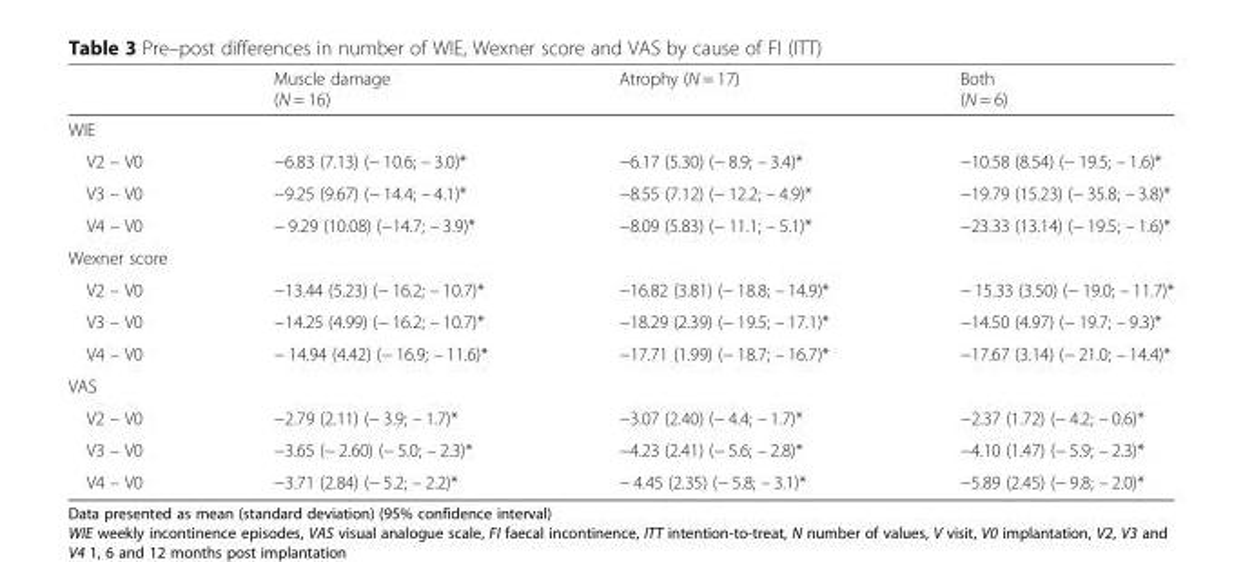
<table><thead><tr><td></td><td>Muscle damage (N = 16)</td><td>Atrophy (N = 17)</td><td>Both (N = 6)</td></tr></thead><tbody><tr><td colspan="4">WIE</td></tr><tr><td>V2 – V0</td><td>−6.83 (7.13) (− 10.6; – 3.0)*</td><td>−6.17 (5.30) (− 8.9; – 3.4)*</td><td>−10.58 (8.54) (− 19.5; – 1.6)*</td></tr><tr><td>V3 – V0</td><td>−9.25 (9.67) (− 14.4; – 4.1)*</td><td>−8.55 (7.12) (− 12.2; – 4.9)*</td><td>−19.79 (15.23) (− 35.8; – 3.8)*</td></tr><tr><td>V4 – V0</td><td>− 9.29 (10.08) (−14.7; – 3.9)*</td><td>−8.09 (5.83) (− 11.1; – 5.1)*</td><td>−23.33 (13.14) (− 19.5; – 1.6)*</td></tr><tr><td colspan="4">Wexner score</td></tr><tr><td>V2 – V0</td><td>−13.44 (5.23) (− 16.2; – 10.7)*</td><td>−16.82 (3.81) (− 18.8; – 14.9)*</td><td>− 15.33 (3.50) (− 19.0; – 11.7)*</td></tr><tr><td>V3 – V0</td><td>−14.25 (4.99) (− 16.2; – 10.7)*</td><td>−18.29 (2.39) (− 19.5; – 17.1)*</td><td>−14.50 (4.97) (− 19.7; – 9.3)*</td></tr><tr><td>V4 – V0</td><td>− 14.94 (4.42) (− 16.9; – 11.6)*</td><td>−17.71 (1.99) (− 18.7; – 16.7)*</td><td>−17.67 (3.14) (− 21.0; – 14.4)*</td></tr><tr><td colspan="4">VAS</td></tr><tr><td>V2 – V0</td><td>−2.79 (2.11) (− 3.9; – 1.7)*</td><td>−3.07 (2.40) (− 4.4; – 1.7)*</td><td>−2.37 (1.72) (− 4.2; – 0.6)*</td></tr><tr><td>V3 – V0</td><td>−3.65 (− 2.60) (− 5.0; – 2.3)*</td><td>−4.23 (2.41) (− 5.6; – 2.8)*</td><td>−4.10 (1.47) (− 5.9; – 2.3)*</td></tr><tr><td>V4 – V0</td><td>−3.71 (2.84) (− 5.2; – 2.2)*</td><td>− 4.45 (2.35) (− 5.8; – 3.1)*</td><td>−5.89 (2.45) (− 9.8; – 2.0)*</td></tr></tbody></table>